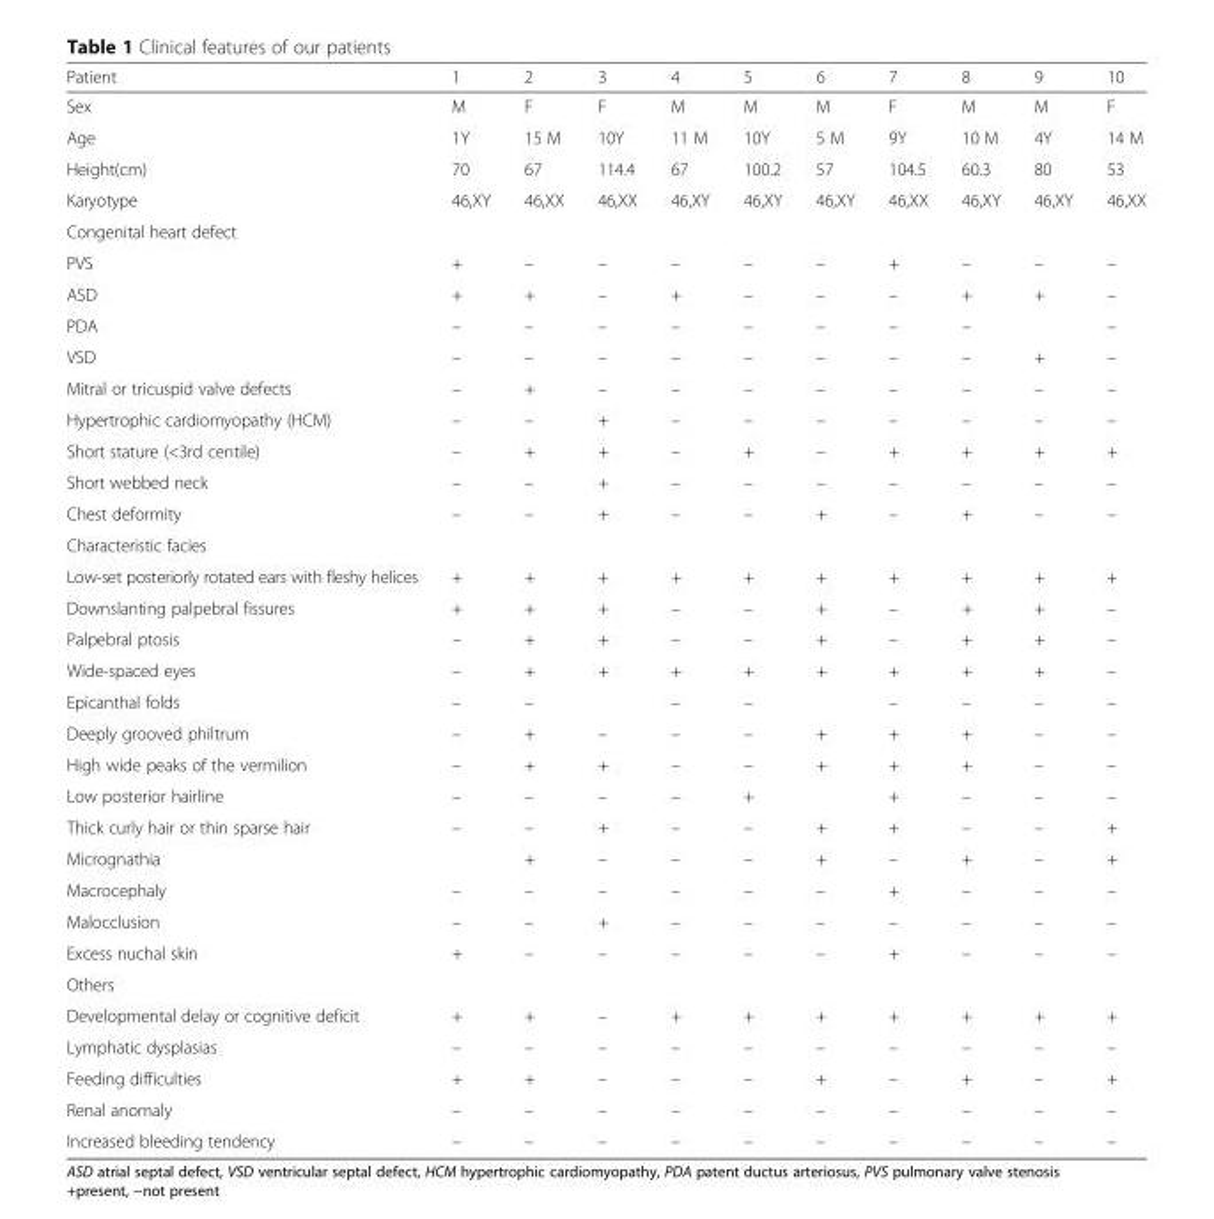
<table><thead><tr><td>Patient</td><td>1</td><td>2</td><td>3</td><td>4</td><td>5</td><td>6</td><td>7</td><td>8</td><td>9</td><td>10</td></tr></thead><tbody><tr><td>Sex</td><td>M</td><td>F</td><td>F</td><td>M</td><td>M</td><td>M</td><td>F</td><td>M</td><td>M</td><td>F</td></tr><tr><td>Age</td><td>1Y</td><td>15 M</td><td>10Y</td><td>11 M</td><td>10Y</td><td>5 M</td><td>9Y</td><td>10 M</td><td>4Y</td><td>14 M</td></tr><tr><td>Height(cm)</td><td>70</td><td>67</td><td>114.4</td><td>67</td><td>100.2</td><td>57</td><td>104.5</td><td>60.3</td><td>80</td><td>53</td></tr><tr><td>Karyotype</td><td>46,XY</td><td>46,XX</td><td>46,XX</td><td>46,XY</td><td>46,XY</td><td>46,XY</td><td>46,XX</td><td>46,XY</td><td>46,XY</td><td>46,XX</td></tr><tr><td colspan="11">Congenital heart defect</td></tr><tr><td>PVS</td><td>+</td><td>–</td><td>–</td><td>–</td><td>–</td><td>–</td><td>+</td><td>–</td><td>–</td><td>–</td></tr><tr><td>ASD</td><td>+</td><td>+</td><td>–</td><td>+</td><td>–</td><td>–</td><td>–</td><td>+</td><td>+</td><td>–</td></tr><tr><td>PDA</td><td>–</td><td>–</td><td>–</td><td>–</td><td>–</td><td>–</td><td>–</td><td>–</td><td></td><td>–</td></tr><tr><td>VSD</td><td>–</td><td>–</td><td>–</td><td>–</td><td>–</td><td>–</td><td>–</td><td>–</td><td>+</td><td>–</td></tr><tr><td>Mitral or tricuspid valve defects</td><td>–</td><td>+</td><td>–</td><td>–</td><td>–</td><td>–</td><td>–</td><td>–</td><td>–</td><td>–</td></tr><tr><td>Hypertrophic cardiomyopathy (HCM)</td><td>–</td><td>–</td><td>+</td><td>–</td><td>–</td><td>–</td><td>–</td><td>–</td><td>–</td><td>–</td></tr><tr><td>Short stature (&lt;3rd centile)</td><td>–</td><td>+</td><td>+</td><td>–</td><td>+</td><td>–</td><td>+</td><td>+</td><td>+</td><td>+</td></tr><tr><td>Short webbed neck</td><td>–</td><td>–</td><td>+</td><td>–</td><td>–</td><td>–</td><td>–</td><td>–</td><td>–</td><td>–</td></tr><tr><td>Chest deformity</td><td>–</td><td>–</td><td>+</td><td>–</td><td>–</td><td>+</td><td>–</td><td>+</td><td>–</td><td>–</td></tr><tr><td colspan="11">Characteristic facies</td></tr><tr><td>Low-set posteriorly rotated ears with fleshy helices</td><td>+</td><td>+</td><td>+</td><td>+</td><td>+</td><td>+</td><td>+</td><td>+</td><td>+</td><td>+</td></tr><tr><td>Downslanting palpebral fissures</td><td>+</td><td>+</td><td>+</td><td>–</td><td>–</td><td>+</td><td>–</td><td>+</td><td>+</td><td>–</td></tr><tr><td>Palpebral ptosis</td><td>–</td><td>+</td><td>+</td><td>–</td><td>–</td><td>+</td><td>–</td><td>+</td><td>+</td><td>–</td></tr><tr><td>Wide-spaced eyes</td><td>–</td><td>+</td><td>+</td><td>+</td><td>+</td><td>+</td><td>+</td><td>+</td><td>+</td><td>–</td></tr><tr><td>Epicanthal folds</td><td>–</td><td>–</td><td></td><td>–</td><td>–</td><td></td><td>–</td><td>–</td><td>–</td><td>–</td></tr><tr><td>Deeply grooved philtrum</td><td>–</td><td>+</td><td>–</td><td>–</td><td>–</td><td>+</td><td>+</td><td>+</td><td>–</td><td>–</td></tr><tr><td>High wide peaks of the vermilion</td><td>–</td><td>+</td><td>+</td><td>–</td><td>–</td><td>+</td><td>+</td><td>+</td><td>–</td><td>–</td></tr><tr><td>Low posterior hairline</td><td>–</td><td>–</td><td>–</td><td>–</td><td>+</td><td></td><td>+</td><td>–</td><td>–</td><td>–</td></tr><tr><td>Thick curly hair or thin sparse hair</td><td>–</td><td>–</td><td>+</td><td>–</td><td>–</td><td>+</td><td>+</td><td>–</td><td>–</td><td>+</td></tr><tr><td>Micrognathia</td><td></td><td>+</td><td>–</td><td>–</td><td>–</td><td>+</td><td>–</td><td>+</td><td>–</td><td>+</td></tr><tr><td>Macrocephaly</td><td>–</td><td>–</td><td>–</td><td>–</td><td>–</td><td>–</td><td>+</td><td>–</td><td>–</td><td>–</td></tr><tr><td>Malocclusion</td><td>–</td><td>–</td><td>+</td><td>–</td><td>–</td><td>–</td><td>–</td><td>–</td><td>–</td><td>–</td></tr><tr><td>Excess nuchal skin</td><td>+</td><td>–</td><td>–</td><td>–</td><td>–</td><td>–</td><td>+</td><td>–</td><td>–</td><td>–</td></tr><tr><td colspan="11">Others</td></tr><tr><td>Developmental delay or cognitive deficit</td><td>+</td><td>+</td><td>–</td><td>+</td><td>+</td><td>+</td><td>+</td><td>+</td><td>+</td><td>+</td></tr><tr><td>Lymphatic dysplasias</td><td>–</td><td>–</td><td>–</td><td>–</td><td>–</td><td>–</td><td>–</td><td>–</td><td>–</td><td>–</td></tr><tr><td>Feeding difficulties</td><td>+</td><td>+</td><td>–</td><td>–</td><td>–</td><td>+</td><td>–</td><td>+</td><td>–</td><td>+</td></tr><tr><td>Renal anomaly</td><td>–</td><td>–</td><td>–</td><td>–</td><td>–</td><td>–</td><td>–</td><td>–</td><td>–</td><td>–</td></tr><tr><td>Increased bleeding tendency</td><td>–</td><td>–</td><td>–</td><td>–</td><td>–</td><td>–</td><td>–</td><td>–</td><td>–</td><td>–</td></tr></tbody></table>